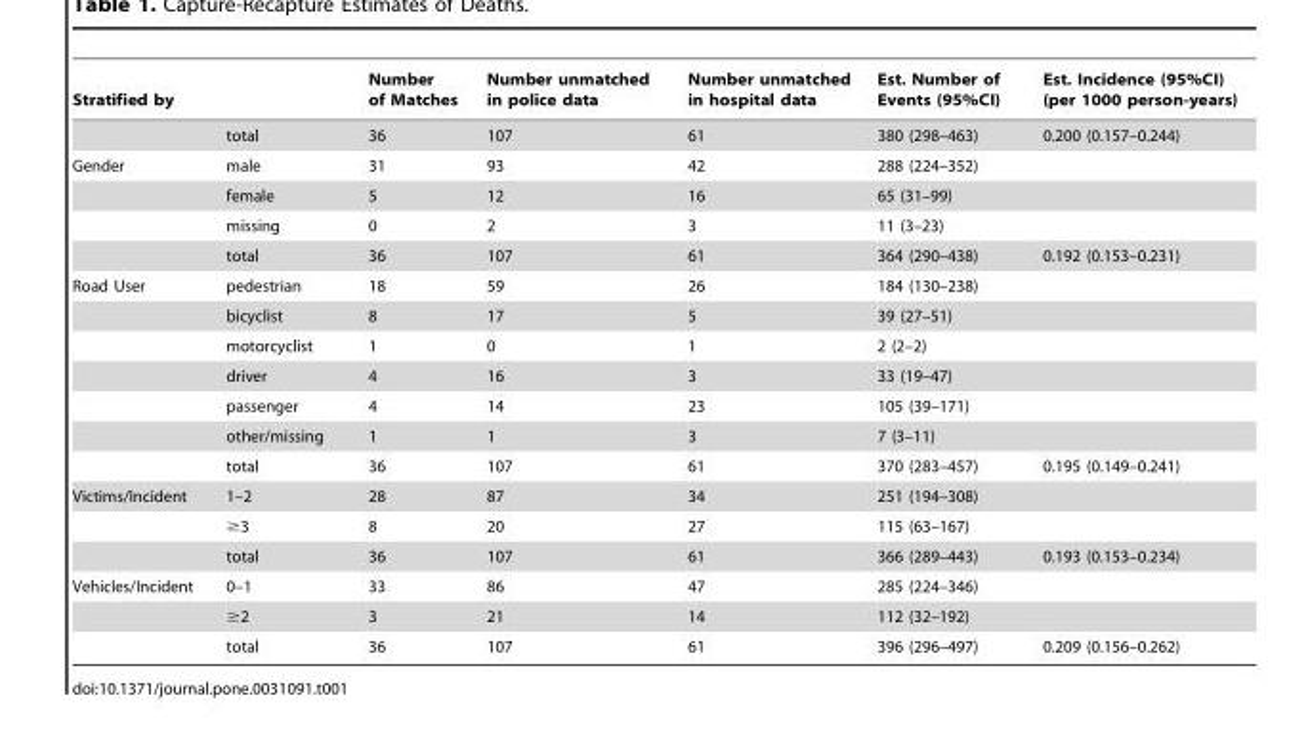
<table><thead><tr><td>Stratified by</td><td></td><td>Number of Matches</td><td>Number unmatched in police data</td><td>Number unmatched in hospital data</td><td>Est. Number of Events (95%CI)</td><td>Est. Incidence (95%CI) (per 1000 person-years)</td></tr></thead><tbody><tr><td></td><td>total</td><td>36</td><td>107</td><td>61</td><td>380 (298–463)</td><td>0.200 (0.157–0.244)</td></tr><tr><td rowspan="4">Gender</td><td>male</td><td>31</td><td>93</td><td>42</td><td>288 (224–352)</td><td></td></tr><tr><td>female</td><td>5</td><td>12</td><td>16</td><td>65 (31–99)</td><td></td></tr><tr><td>missing</td><td>0</td><td>2</td><td>3</td><td>11 (3–23)</td><td></td></tr><tr><td>total</td><td>36</td><td>107</td><td>61</td><td>364 (290–438)</td><td>0.192 (0.153–0.231)</td></tr><tr><td rowspan="7">Road User</td><td>pedestrian</td><td>18</td><td>59</td><td>26</td><td>184 (130–238)</td><td></td></tr><tr><td>bicyclist</td><td>8</td><td>17</td><td>5</td><td>39 (27–51)</td><td></td></tr><tr><td>motorcyclist</td><td>1</td><td>0</td><td>1</td><td>2 (2–2)</td><td></td></tr><tr><td>driver</td><td>4</td><td>16</td><td>3</td><td>33 (19–47)</td><td></td></tr><tr><td>passenger</td><td>4</td><td>14</td><td>23</td><td>105 (39–171)</td><td></td></tr><tr><td>other/missing</td><td>1</td><td>1</td><td>3</td><td>7 (3–11)</td><td></td></tr><tr><td>total</td><td>36</td><td>107</td><td>61</td><td>370 (283–457)</td><td>0.195 (0.149–0.241)</td></tr><tr><td rowspan="3">Victims/Incident</td><td>1–2</td><td>28</td><td>87</td><td>34</td><td>251 (194–308)</td><td></td></tr><tr><td>≥3</td><td>8</td><td>20</td><td>27</td><td>115 (63–167)</td><td></td></tr><tr><td>total</td><td>36</td><td>107</td><td>61</td><td>366 (289–443)</td><td>0.193 (0.153–0.234)</td></tr><tr><td rowspan="3">Vehicles/Incident</td><td>0–1</td><td>33</td><td>86</td><td>47</td><td>285 (224–346)</td><td></td></tr><tr><td>≥2</td><td>3</td><td>21</td><td>14</td><td>112 (32–192)</td><td></td></tr><tr><td>total</td><td>36</td><td>107</td><td>61</td><td>396 (296–497)</td><td>0.209 (0.156–0.262)</td></tr></tbody></table>